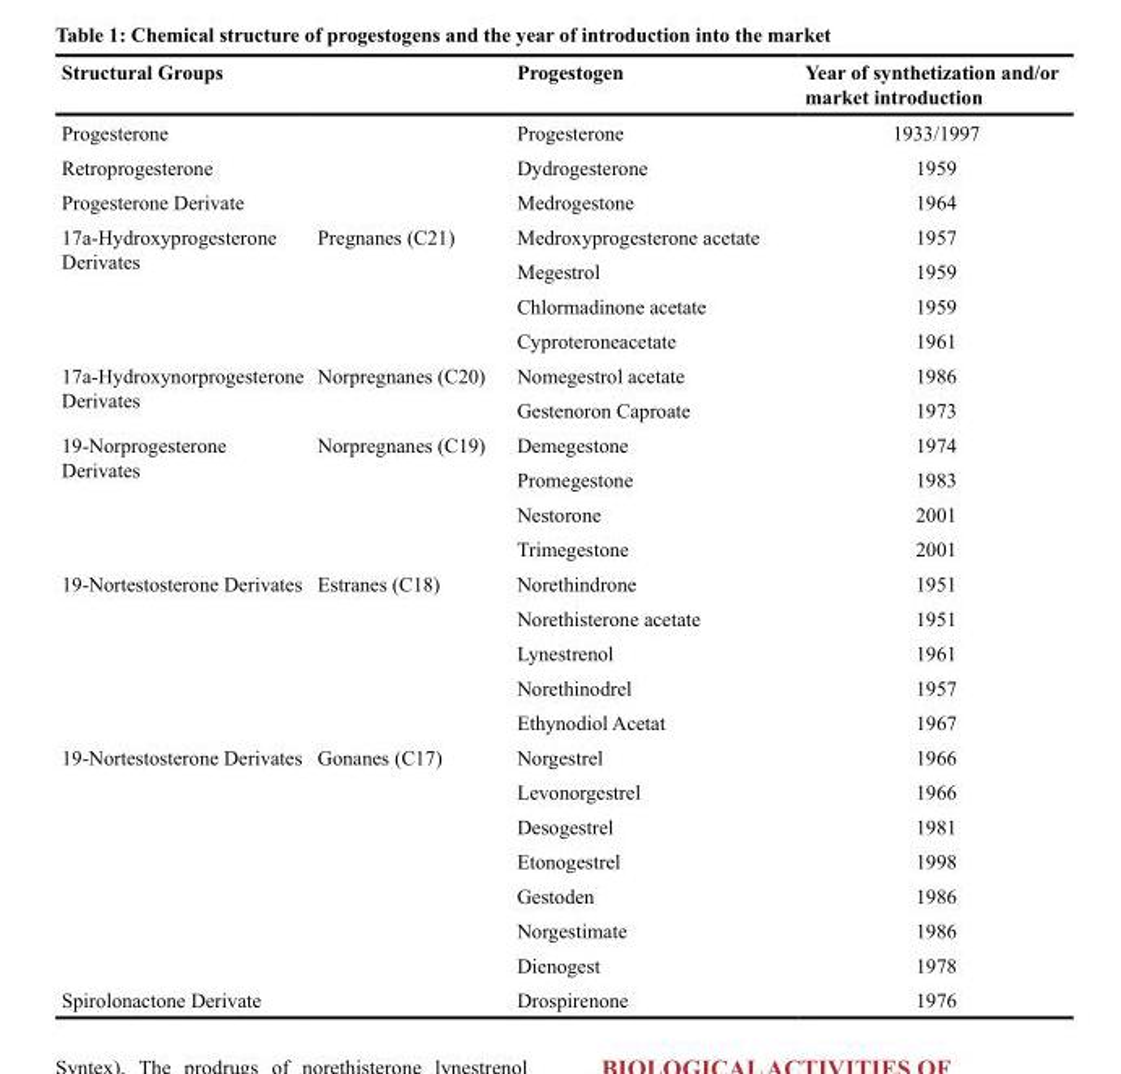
<table><thead><tr><td>Structural Groups</td><td></td><td>Progestogen</td><td>Year of synthetization and/or market introduction</td></tr></thead><tbody><tr><td>Progesterone</td><td></td><td>Progesterone</td><td>1933/1997</td></tr><tr><td>Retroprogesterone</td><td></td><td>Dydrogesterone</td><td>1959</td></tr><tr><td>Progesterone Derivate</td><td></td><td>Medrogestone</td><td>1964</td></tr><tr><td rowspan="4">17a-Hydroxyprogesterone Derivates</td><td rowspan="4">Pregnanes (C21)</td><td>Medroxyprogesterone acetate</td><td>1957</td></tr><tr><td>Megestrol</td><td>1959</td></tr><tr><td>Chlormadinone acetate</td><td>1959</td></tr><tr><td>Cyproteroneacetate</td><td>1961</td></tr><tr><td rowspan="2">17a-Hydroxynorprogesterone Derivates</td><td rowspan="2">Norpregnanes (C20)</td><td>Nomegestrol acetate</td><td>1986</td></tr><tr><td>Gestenoron Caproate</td><td>1973</td></tr><tr><td rowspan="4">19-Norprogesterone Derivates</td><td rowspan="4">Norpregnanes (C19)</td><td>Demegestone</td><td>1974</td></tr><tr><td>Promegestone</td><td>1983</td></tr><tr><td>Nestorone</td><td>2001</td></tr><tr><td>Trimegestone</td><td>2001</td></tr><tr><td rowspan="5">19-Nortestosterone Derivates</td><td rowspan="5">Estranes (C18)</td><td>Norethindrone</td><td>1951</td></tr><tr><td>Norethisterone acetate</td><td>1951</td></tr><tr><td>Lynestrenol</td><td>1961</td></tr><tr><td>Norethinodrel</td><td>1957</td></tr><tr><td>Ethynodiol Acetat</td><td>1967</td></tr><tr><td rowspan="7">19-Nortestosterone Derivates</td><td rowspan="7">Gonanes (C17)</td><td>Norgestrel</td><td>1966</td></tr><tr><td>Levonorgestrel</td><td>1966</td></tr><tr><td>Desogestrel</td><td>1981</td></tr><tr><td>Etonogestrel</td><td>1998</td></tr><tr><td>Gestoden</td><td>1986</td></tr><tr><td>Norgestimate</td><td>1986</td></tr><tr><td>Dienogest</td><td>1978</td></tr><tr><td>Spirolonactone Derivate</td><td></td><td>Drospirenone</td><td>1976</td></tr></tbody></table>